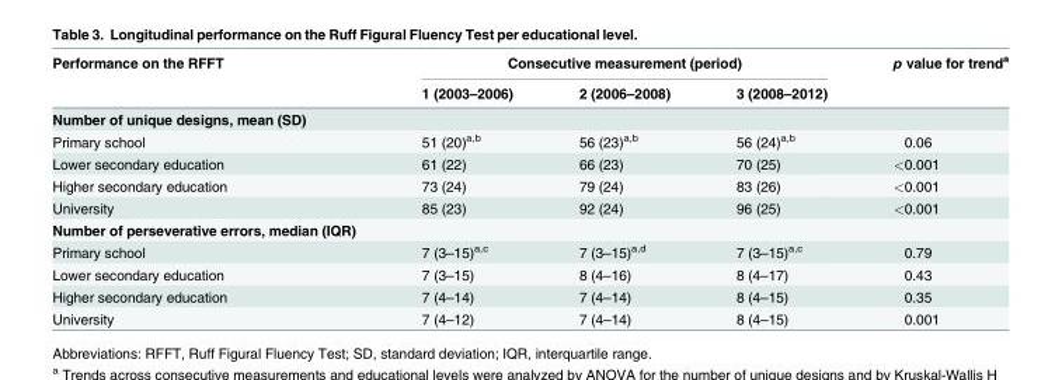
<table><thead><tr><td rowspan="2">Performance on the RFFT</td><td colspan="3">Consecutive measurement (period)</td><td rowspan="2">p value for trend<sup>a</sup></td></tr><tr><td>1 (2003–2006)</td><td>2 (2006–2008)</td><td>3 (2008–2012)</td></tr></thead><tbody><tr><td colspan="5">Number of unique designs, mean (SD)</td></tr><tr><td>Primary school</td><td>51 (20)<sup>a,b</sup></td><td>56 (23)<sup>a,b</sup></td><td>56 (24)<sup>a,b</sup></td><td>0.06</td></tr><tr><td>Lower secondary education</td><td>61 (22)</td><td>66 (23)</td><td>70 (25)</td><td>&lt;0.001</td></tr><tr><td>Higher secondary education</td><td>73 (24)</td><td>79 (24)</td><td>83 (26)</td><td>&lt;0.001</td></tr><tr><td>University</td><td>85 (23)</td><td>92 (24)</td><td>96 (25)</td><td>&lt;0.001</td></tr><tr><td colspan="5">Number of perseverative errors, median (IQR)</td></tr><tr><td>Primary school</td><td>7 (3–15)<sup>a,c</sup></td><td>7 (3–15)<sup>a,d</sup></td><td>7 (3–15)<sup>a,c</sup></td><td>0.79</td></tr><tr><td>Lower secondary education</td><td>7 (3–15)</td><td>8 (4–16)</td><td>8 (4–17)</td><td>0.43</td></tr><tr><td>Higher secondary education</td><td>7 (4–14)</td><td>7 (4–14)</td><td>8 (4–15)</td><td>0.35</td></tr><tr><td>University</td><td>7 (4–12)</td><td>7 (4–14)</td><td>8 (4–15)</td><td>0.001</td></tr></tbody></table>